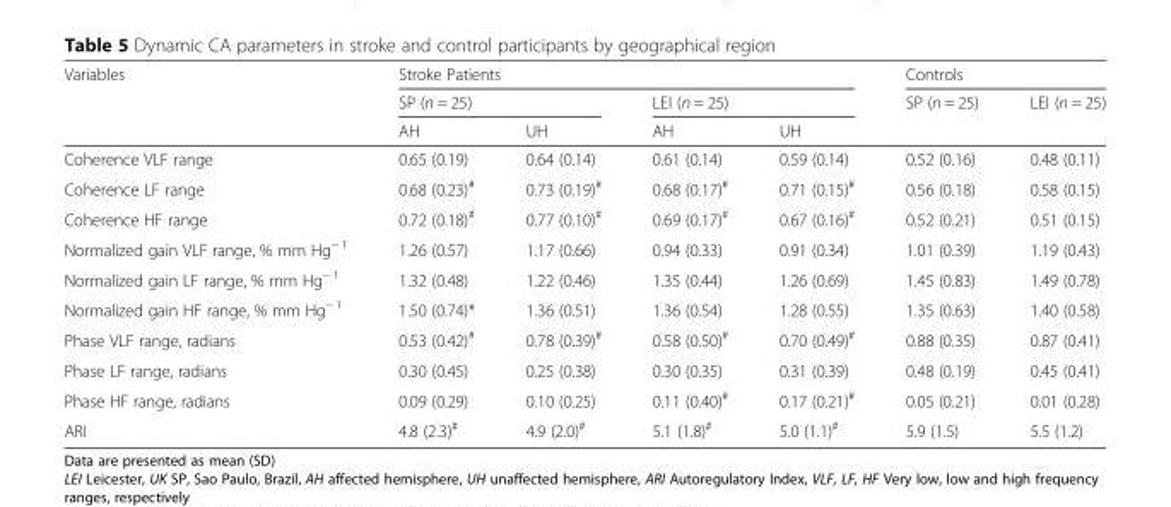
<table><thead><tr><td rowspan="3">Variables</td><td colspan="4">Stroke Patients</td><td colspan="2">Controls</td></tr><tr><td colspan="2">SP (n = 25)</td><td colspan="2">LEI (n = 25)</td><td rowspan="2">SP (n = 25)</td><td rowspan="2">LEI (n = 25)</td></tr><tr><td>AH</td><td>UH</td><td>AH</td><td>UH</td></tr></thead><tbody><tr><td>Coherence VLF range</td><td>0.65 (0.19)</td><td>0.64 (0.14)</td><td>0.61 (0.14)</td><td>0.59 (0.14)</td><td>0.52 (0.16)</td><td>0.48 (0.11)</td></tr><tr><td>Coherence LF range</td><td>0.68 (0.23)<sup>#</sup></td><td>0.73 (0.19)<sup>#</sup></td><td>0.68 (0.17)<sup>#</sup></td><td>0.71 (0.15)<sup>#</sup></td><td>0.56 (0.18)</td><td>0.58 (0.15)</td></tr><tr><td>Coherence HF range</td><td>0.72 (0.18)<sup>#</sup></td><td>0.77 (0.10)<sup>#</sup></td><td>0.69 (0.17)<sup>#</sup></td><td>0.67 (0.16)<sup>#</sup></td><td>0.52 (0.21)</td><td>0.51 (0.15)</td></tr><tr><td>Normalized gain VLF range, % mm Hg<sup>− 1</sup></td><td>1.26 (0.57)</td><td>1.17 (0.66)</td><td>0.94 (0.33)</td><td>0.91 (0.34)</td><td>1.01 (0.39)</td><td>1.19 (0.43)</td></tr><tr><td>Normalized gain LF range, % mm Hg<sup>− 1</sup></td><td>1.32 (0.48)</td><td>1.22 (0.46)</td><td>1.35 (0.44)</td><td>1.26 (0.69)</td><td>1.45 (0.83)</td><td>1.49 (0.78)</td></tr><tr><td>Normalized gain HF range, % mm Hg<sup>− 1</sup></td><td>1.50 (0.74)*</td><td>1.36 (0.51)</td><td>1.36 (0.54)</td><td>1.28 (0.55)</td><td>1.35 (0.63)</td><td>1.40 (0.58)</td></tr><tr><td>Phase VLF range, radians</td><td>0.53 (0.42)<sup>#</sup></td><td>0.78 (0.39)<sup>#</sup></td><td>0.58 (0.50)<sup>#</sup></td><td>0.70 (0.49)<sup>#</sup></td><td>0.88 (0.35)</td><td>0.87 (0.41)</td></tr><tr><td>Phase LF range, radians</td><td>0.30 (0.45)</td><td>0.25 (0.38)</td><td>0.30 (0.35)</td><td>0.31 (0.39)</td><td>0.48 (0.19)</td><td>0.45 (0.41)</td></tr><tr><td>Phase HF range, radians</td><td>0.09 (0.29)</td><td>0.10 (0.25)</td><td>0.11 (0.40)<sup>#</sup></td><td>0.17 (0.21)<sup>#</sup></td><td>0.05 (0.21)</td><td>0.01 (0.28)</td></tr><tr><td>ARI</td><td>4.8 (2.3)<sup>#</sup></td><td>4.9 (2.0)<sup>#</sup></td><td>5.1 (1.8)<sup>#</sup></td><td>5.0 (1.1)<sup>#</sup></td><td>5.9 (1.5)</td><td>5.5 (1.2)</td></tr></tbody></table>